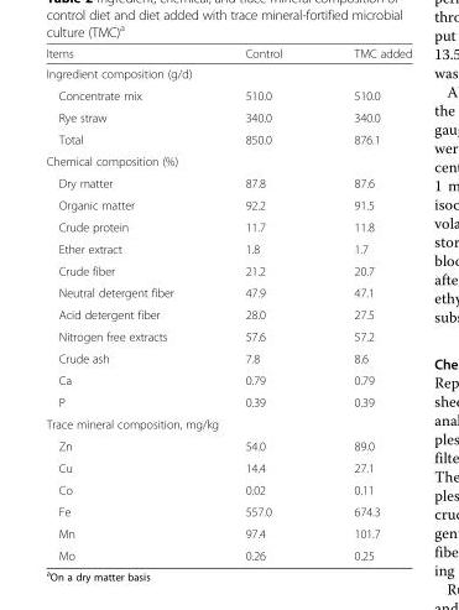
<table><thead><tr><td>Items</td><td>Control</td><td>TMC added</td></tr></thead><tbody><tr><td colspan="3">Ingredient composition (g/d)</td></tr><tr><td>Concentrate mix</td><td>510.0</td><td>510.0</td></tr><tr><td>Rye straw</td><td>340.0</td><td>340.0</td></tr><tr><td>Total</td><td>850.0</td><td>876.1</td></tr><tr><td colspan="3">Chemical composition (%)</td></tr><tr><td>Dry matter</td><td>87.8</td><td>87.6</td></tr><tr><td>Organic matter</td><td>92.2</td><td>91.5</td></tr><tr><td>Crude protein</td><td>11.7</td><td>11.8</td></tr><tr><td>Ether extract</td><td>1.8</td><td>1.7</td></tr><tr><td>Crude fiber</td><td>21.2</td><td>20.7</td></tr><tr><td>Neutral detergent fiber</td><td>47.9</td><td>47.1</td></tr><tr><td>Acid detergent fiber</td><td>28.0</td><td>27.5</td></tr><tr><td>Nitrogen free extracts</td><td>57.6</td><td>57.2</td></tr><tr><td>Crude ash</td><td>7.8</td><td>8.6</td></tr><tr><td>Ca</td><td>0.79</td><td>0.79</td></tr><tr><td>P</td><td>0.39</td><td>0.39</td></tr><tr><td colspan="3">Trace mineral composition, mg/kg</td></tr><tr><td>Zn</td><td>54.0</td><td>89.0</td></tr><tr><td>Cu</td><td>14.4</td><td>27.1</td></tr><tr><td>Co</td><td>0.02</td><td>0.11</td></tr><tr><td>Fe</td><td>557.0</td><td>674.3</td></tr><tr><td>Mn</td><td>97.4</td><td>101.7</td></tr><tr><td>Mo</td><td>0.26</td><td>0.25</td></tr></tbody></table>